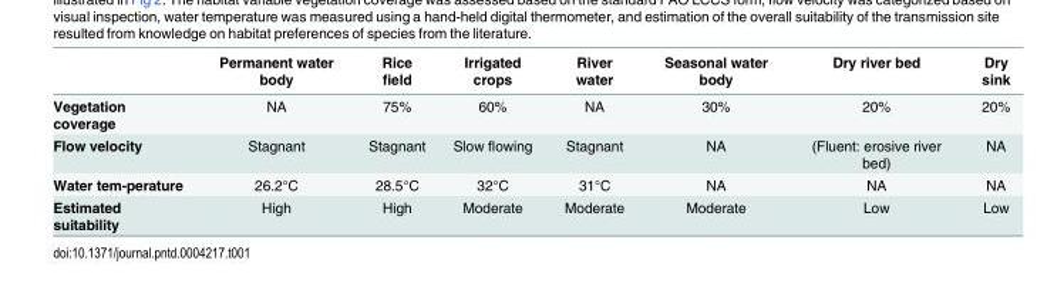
<table><thead><tr><td></td><td>Permanent water body</td><td>Rice field</td><td>Irrigated crops</td><td>River water</td><td>Seasonal water body</td><td>Dry river bed</td><td>Dry sink</td></tr></thead><tbody><tr><td>Vegetation coverage</td><td>NA</td><td>75%</td><td>60%</td><td>NA</td><td>30%</td><td>20%</td><td>20%</td></tr><tr><td>Flow velocity</td><td>Stagnant</td><td>Stagnant</td><td>Slow flowing</td><td>Stagnant</td><td>NA</td><td>(Fluent: erosive river bed)</td><td>NA</td></tr><tr><td>Water tem-perature</td><td>26.2°C</td><td>28.5°C</td><td>32°C</td><td>31°C</td><td>NA</td><td>NA</td><td>NA</td></tr><tr><td>Estimated suitability</td><td>High</td><td>High</td><td>Moderate</td><td>Moderate</td><td>Moderate</td><td>Low</td><td>Low</td></tr></tbody></table>